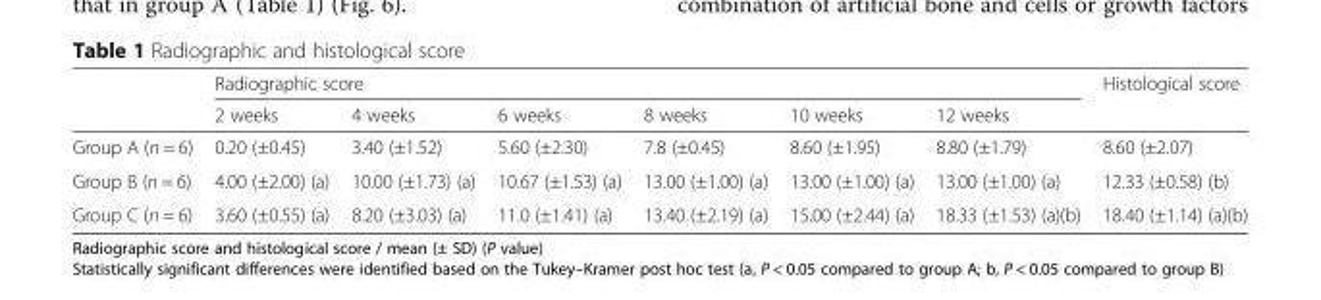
<table><thead><tr><td rowspan="2"></td><td colspan="6">Radiographic score</td><td rowspan="2">Histological score</td></tr><tr><td>2 weeks</td><td>4 weeks</td><td>6 weeks</td><td>8 weeks</td><td>10 weeks</td><td>12 weeks</td></tr></thead><tbody><tr><td>Group A (n = 6)</td><td>0.20 (±0.45)</td><td>3.40 (±1.52)</td><td>5.60 (±2.30)</td><td>7.8 (±0.45)</td><td>8.60 (±1.95)</td><td>8.80 (±1.79)</td><td>8.60 (±2.07)</td></tr><tr><td>Group B (n = 6)</td><td>4.00 (±2.00) (a)</td><td>10.00 (±1.73) (a)</td><td>10.67 (±1.53) (a)</td><td>13.00 (±1.00) (a)</td><td>13.00 (±1.00) (a)</td><td>13.00 (±1.00) (a)</td><td>12.33 (±0.58) (b)</td></tr><tr><td>Group C (n = 6)</td><td>3.60 (±0.55) (a)</td><td>8.20 (±3.03) (a)</td><td>11.0 (±1.41) (a)</td><td>13.40 (±2.19) (a)</td><td>15.00 (±2.44) (a)</td><td>18.33 (±1.53) (a)(b)</td><td>18.40 (±1.14) (a)(b)</td></tr></tbody></table>